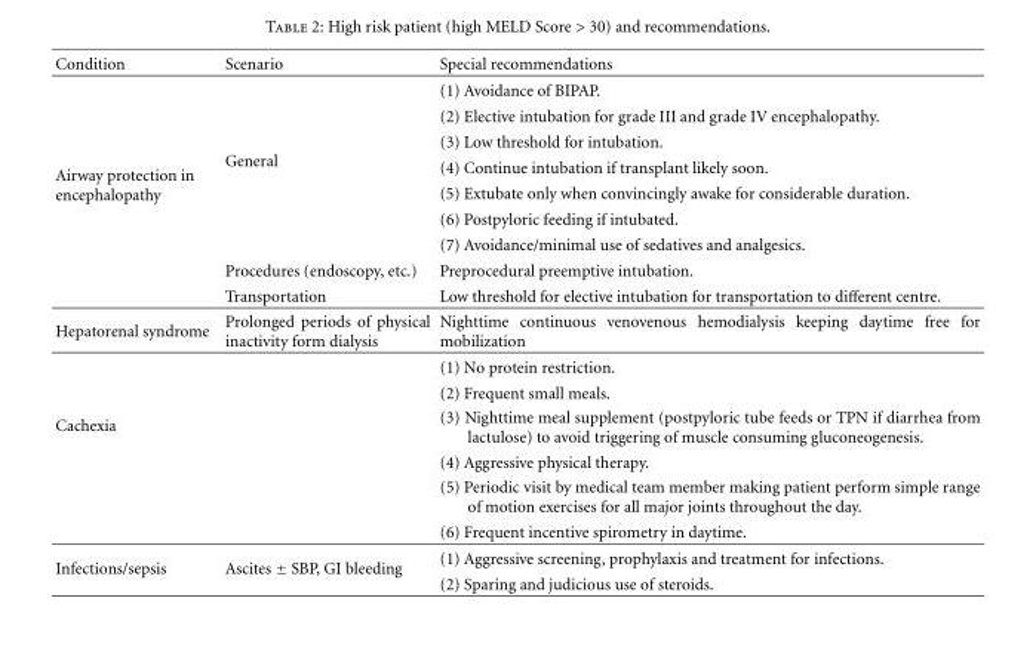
<table><thead><tr><td>Condition</td><td>Scenario</td><td>Special recommendations</td></tr></thead><tbody><tr><td rowspan="9">Airway protection in encephalopathy</td><td rowspan="7">General</td><td>(1) Avoidance of BIPAP.</td></tr><tr><td>(2) Elective intubation for grade III and grade IV encephalopathy.</td></tr><tr><td>(3) Low threshold for intubation.</td></tr><tr><td>(4) Continue intubation if transplant likely soon.</td></tr><tr><td>(5) Extubate only when convincingly awake for considerable duration.</td></tr><tr><td>(6) Postpyloric feeding if intubated.</td></tr><tr><td>(7) Avoidance/minimal use of sedatives and analgesics.</td></tr><tr><td>Procedures (endoscopy, etc.)</td><td>Preprocedural preemptive intubation.</td></tr><tr><td>Transportation</td><td>Low threshold for elective intubation for transportation to different centre.</td></tr><tr><td>Hepatorenal syndrome</td><td>Prolonged periods of physical inactivity form dialysis</td><td>Nighttime continuous venovenous hemodialysis keeping daytime free for mobilization</td></tr><tr><td rowspan="6">Cachexia</td><td rowspan="6"></td><td>(1) No protein restriction.</td></tr><tr><td>(2) Frequent small meals.</td></tr><tr><td>(3) Nighttime meal supplement (postpyloric tube feeds or TPN if diarrhea from lactulose) to avoid triggering of muscle consuming gluconeogenesis.</td></tr><tr><td>(4) Aggressive physical therapy.</td></tr><tr><td>(5) Periodic visit by medical team member making patient perform simple range of motion exercises for all major joints throughout the day.</td></tr><tr><td>(6) Frequent incentive spirometry in daytime.</td></tr><tr><td rowspan="2">Infections/sepsis</td><td rowspan="2">Ascites ± SBP, GI bleeding</td><td>(1) Aggressive screening, prophylaxis and treatment for infections.</td></tr><tr><td>(2) Sparing and judicious use of steroids.</td></tr></tbody></table>